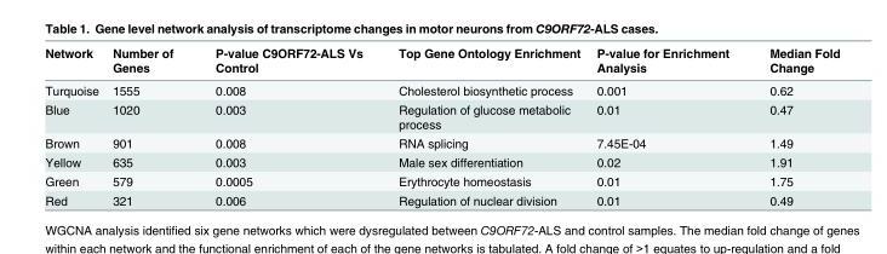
<table><thead><tr><td>Network</td><td>Number of Genes</td><td>P-value C9ORF72-ALS Vs Control</td><td>Top Gene Ontology Enrichment</td><td>P-value for Enrichment Analysis</td><td>Median Fold Change</td></tr></thead><tbody><tr><td>Turquoise</td><td>1555</td><td>0.008</td><td>Cholesterol biosynthetic process</td><td>0.001</td><td>0.62</td></tr><tr><td>Blue</td><td>1020</td><td>0.003</td><td>Regulation of glucose metabolic process</td><td>0.01</td><td>0.47</td></tr><tr><td>Brown</td><td>901</td><td>0.008</td><td>RNA splicing</td><td>7.45E-04</td><td>1.49</td></tr><tr><td>Yellow</td><td>635</td><td>0.003</td><td>Male sex differentiation</td><td>0.02</td><td>1.91</td></tr><tr><td>Green</td><td>579</td><td>0.0005</td><td>Erythrocyte homeostasis</td><td>0.01</td><td>1.75</td></tr><tr><td>Red</td><td>321</td><td>0.006</td><td>Regulation of nuclear division</td><td>0.01</td><td>0.49</td></tr></tbody></table>